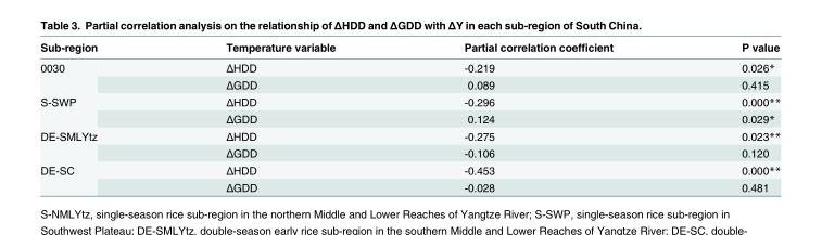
<table><thead><tr><td>Sub-region</td><td>Temperature variable</td><td>Partial correlation coefficient</td><td>P value</td></tr></thead><tbody><tr><td rowspan="2">0030</td><td>ΔHDD</td><td>-0.219</td><td>0.026*</td></tr><tr><td>ΔGDD</td><td>0.089</td><td>0.415</td></tr><tr><td rowspan="2">S-SWP</td><td>ΔHDD</td><td>-0.296</td><td>0.000**</td></tr><tr><td>ΔGDD</td><td>0.124</td><td>0.029*</td></tr><tr><td rowspan="2">DE-SMLYtz</td><td>ΔHDD</td><td>-0.275</td><td>0.023**</td></tr><tr><td>ΔGDD</td><td>-0.106</td><td>0.120</td></tr><tr><td rowspan="2">DE-SC</td><td>ΔHDD</td><td>-0.453</td><td>0.000**</td></tr><tr><td>ΔGDD</td><td>-0.028</td><td>0.481</td></tr></tbody></table>